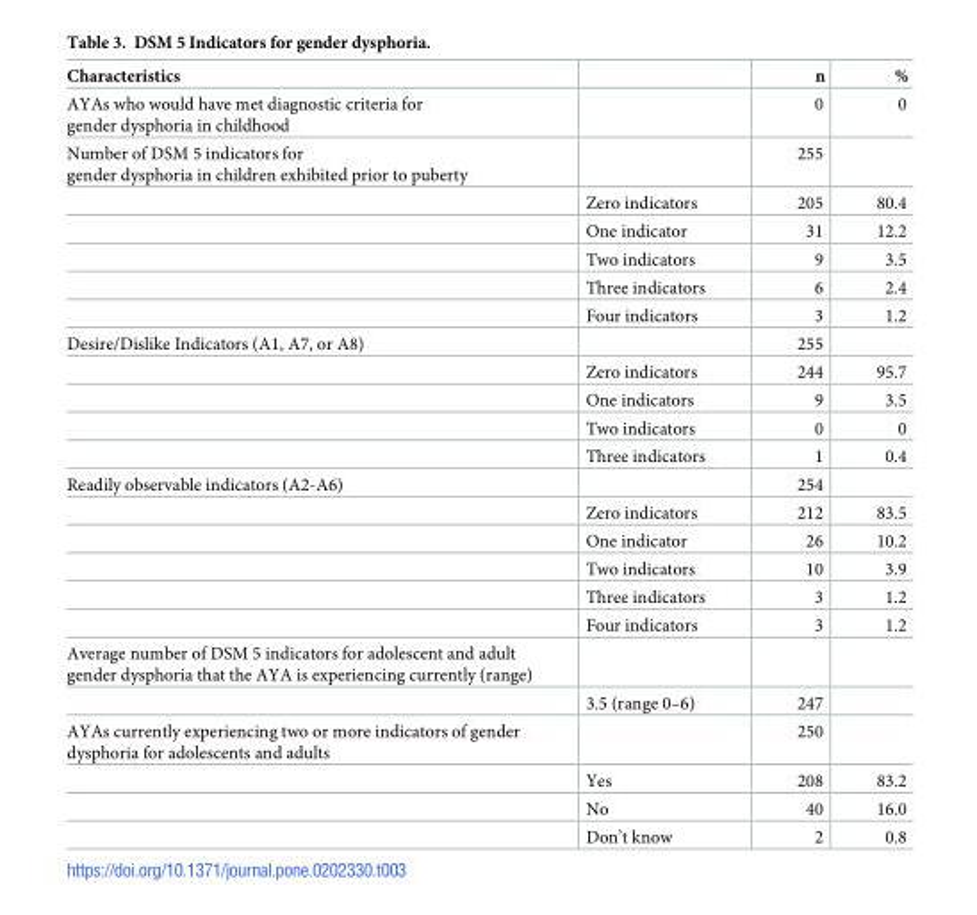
<table><thead><tr><td>Characteristics</td><td></td><td>n</td><td>%</td></tr></thead><tbody><tr><td>AYAs who would have met diagnostic criteria for gender dysphoria in childhood</td><td></td><td>0</td><td>0</td></tr><tr><td rowspan="6">Number of DSM 5 indicators for gender dysphoria in children exhibited prior to puberty</td><td></td><td>255</td><td></td></tr><tr><td>Zero indicators</td><td>205</td><td>80.4</td></tr><tr><td>One indicator</td><td>31</td><td>12.2</td></tr><tr><td>Two indicators</td><td>9</td><td>3.5</td></tr><tr><td>Three indicators</td><td>6</td><td>2.4</td></tr><tr><td>Four indicators</td><td>3</td><td>1.2</td></tr><tr><td rowspan="5">Desire/Dislike Indicators (A1, A7, or A8)</td><td></td><td>255</td><td></td></tr><tr><td>Zero indicators</td><td>244</td><td>95.7</td></tr><tr><td>One indicators</td><td>9</td><td>3.5</td></tr><tr><td>Two indicators</td><td>0</td><td>0</td></tr><tr><td>Three indicators</td><td>1</td><td>0.4</td></tr><tr><td rowspan="6">Readily observable indicators (A2-A6)</td><td></td><td>254</td><td></td></tr><tr><td>Zero indicators</td><td>212</td><td>83.5</td></tr><tr><td>One indicator</td><td>26</td><td>10.2</td></tr><tr><td>Two indicators</td><td>10</td><td>3.9</td></tr><tr><td>Three indicators</td><td>3</td><td>1.2</td></tr><tr><td>Four indicators</td><td>3</td><td>1.2</td></tr><tr><td colspan="4">Average number of DSM 5 indicators for adolescent and adult gender dysphoria that the AYA is experiencing currently (range)</td></tr><tr><td></td><td>3.5 (range 0–6)</td><td>247</td><td></td></tr><tr><td rowspan="4">AYAs currently experiencing two or more indicators of gender dysphoria for adolescents and adults</td><td></td><td>250</td><td></td></tr><tr><td>Yes</td><td>208</td><td>83.2</td></tr><tr><td>No</td><td>40</td><td>16.0</td></tr><tr><td>Don’t know</td><td>2</td><td>0.8</td></tr></tbody></table>